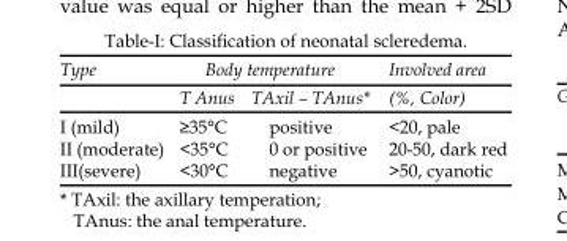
<table><thead><tr><td rowspan="2">Type</td><td colspan="2">Body temperature</td><td rowspan="2">Involved area (%, Color)</td></tr><tr><td>T <sub>Anus</sub></td><td>T<sub>Axil</sub> – T<sub>Anus</sub>*</td></tr></thead><tbody><tr><td>I (mild)</td><td>≥35°C</td><td>positive</td><td>&lt;20, pale</td></tr><tr><td>II (moderate)</td><td>&lt;35°C</td><td>0 or positive</td><td>20-50, dark red</td></tr><tr><td>III(severe)</td><td>&lt;30°C</td><td>negative</td><td>&gt;50, cyanotic</td></tr></tbody></table>